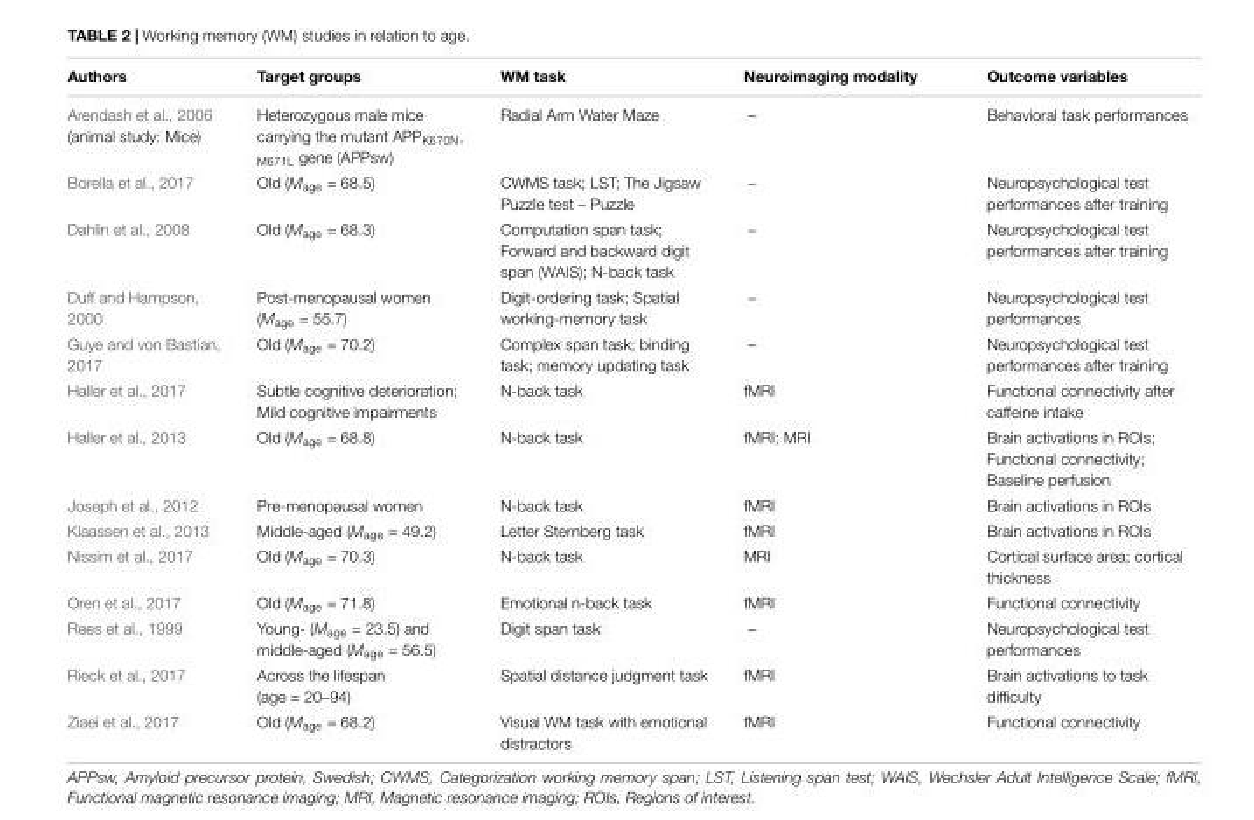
<table><thead><tr><td>Authors</td><td>Target groups</td><td>WM task</td><td>Neuroimaging modality</td><td>Outcome variables</td></tr></thead><tbody><tr><td>Arendash et al., 2006 (animal study: Mice)</td><td>Heterozygous male mice carrying the mutant APP<sub>K670N, M671L</sub> gene (APPsw)</td><td>Radial Arm Water Maze</td><td>–</td><td>Behavioral task performances</td></tr><tr><td>Borella et al., 2017</td><td>Old (M<sub>age</sub> = 68.5)</td><td>CWMS task; LST; The Jigsaw Puzzle test – Puzzle</td><td>–</td><td>Neuropsychological test performances after training</td></tr><tr><td>Dahlin et al., 2008</td><td>Old (M<sub>age</sub> = 68.3)</td><td>Computation span task; Forward and backward digit span (WAIS); N-back task</td><td>–</td><td>Neuropsychological test performances after training</td></tr><tr><td>Duff and Hampson, 2000</td><td>Post-menopausal women (M<sub>age</sub> = 55.7)</td><td>Digit-ordering task; Spatial working-memory task</td><td>–</td><td>Neuropsychological test performances</td></tr><tr><td>Guye and von Bastian, 2017</td><td>Old (M<sub>age</sub> = 70.2)</td><td>Complex span task; binding task; memory updating task</td><td>–</td><td>Neuropsychological test performances after training</td></tr><tr><td>Haller et al., 2017</td><td>Subtle cognitive deterioration; Mild cognitive impairments</td><td>N-back task</td><td>fMRI</td><td>Functional connectivity after caffeine intake</td></tr><tr><td>Haller et al., 2013</td><td>Old (M<sub>age</sub> = 68.8)</td><td>N-back task</td><td>fMRI; MRI</td><td>Brain activations in ROIs; Functional connectivity; Baseline perfusion</td></tr><tr><td>Joseph et al., 2012</td><td>Pre-menopausal women</td><td>N-back task</td><td>fMRI</td><td>Brain activations in ROIs</td></tr><tr><td>Klaassen et al., 2013</td><td>Middle-aged (M<sub>age</sub> = 49.2)</td><td>Letter Sternberg task</td><td>fMRI</td><td>Brain activations in ROIs</td></tr><tr><td>Nissim et al., 2017</td><td>Old (M<sub>age</sub> = 70.3)</td><td>N-back task</td><td>MRI</td><td>Cortical surface area; cortical thickness</td></tr><tr><td>Oren et al., 2017</td><td>Old (M<sub>age</sub> = 71.8)</td><td>Emotional n-back task</td><td>fMRI</td><td>Functional connectivity</td></tr><tr><td>Rees et al., 1999</td><td>Young- (M<sub>age</sub> = 23.5) and middle-aged (M<sub>age</sub> = 56.5)</td><td>Digit span task</td><td>–</td><td>Neuropsychological test performances</td></tr><tr><td>Rieck et al., 2017</td><td>Across the lifespan (age = 20–94)</td><td>Spatial distance judgment task</td><td>fMRI</td><td>Brain activations to task difficulty</td></tr><tr><td>Ziaei et al., 2017</td><td>Old (M<sub>age</sub> = 68.2)</td><td>Visual WM task with emotional distractors</td><td>fMRI</td><td>Functional connectivity</td></tr></tbody></table>